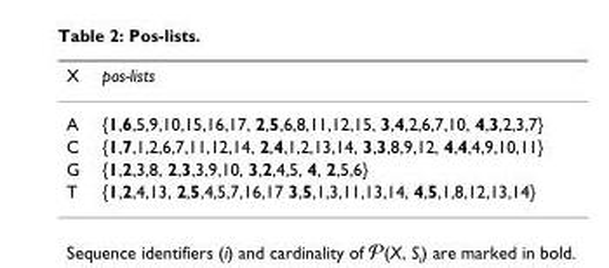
<table><thead><tr><td>X</td><td>pos-lists</td></tr></thead><tbody><tr><td>A</td><td>{1,6,5,9,10,15,16,17, 2,5,6,8,11,12,15, 3,4,2,6,7,10, 4,3,2,3,7}</td></tr><tr><td>C</td><td>{1,7,1,2,6,7,11,12,14, 2,4,1,2,13,14, 3,3,8,9,12, 4,4,4,9,10,11}</td></tr><tr><td>G</td><td>{1,2,3,8, 2,3,3,9,10, 3,2,4,5, 4, 2,5,6}</td></tr><tr><td>T</td><td>{1,2,4,13, 2,5,4,5,7,16,17 3,5,1,3,11,13,14, 4,5,1,8,12,13,14}</td></tr></tbody></table>